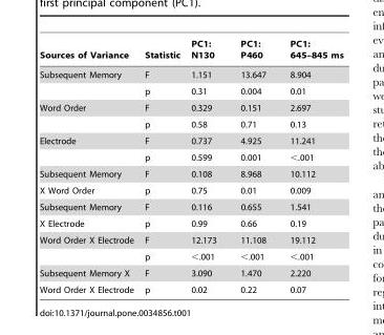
<table><thead><tr><td>Sources of Variance</td><td>Statistic</td><td>PC1: N130</td><td>PC1: P460</td><td>PC1: 645–845 ms</td></tr></thead><tbody><tr><td rowspan="2">Subsequent Memory</td><td>F</td><td>1.151</td><td>13.647</td><td>8.904</td></tr><tr><td>p</td><td>0.31</td><td>0.004</td><td>0.01</td></tr><tr><td rowspan="2">Word Order</td><td>F</td><td>0.329</td><td>0.151</td><td>2.697</td></tr><tr><td>p</td><td>0.58</td><td>0.71</td><td>0.13</td></tr><tr><td rowspan="2">Electrode</td><td>F</td><td>0.737</td><td>4.925</td><td>11.241</td></tr><tr><td>p</td><td>0.599</td><td>0.001</td><td>&lt;.001</td></tr><tr><td>Subsequent Memory</td><td>F</td><td>0.108</td><td>8.968</td><td>10.112</td></tr><tr><td>X Word Order</td><td>p</td><td>0.75</td><td>0.01</td><td>0.009</td></tr><tr><td>Subsequent Memory</td><td>F</td><td>0.116</td><td>0.655</td><td>1.541</td></tr><tr><td>X Electrode</td><td>p</td><td>0.99</td><td>0.66</td><td>0.19</td></tr><tr><td rowspan="2">Word Order X Electrode</td><td>F</td><td>12.173</td><td>11.108</td><td>19.112</td></tr><tr><td>p</td><td>&lt;.001</td><td>&lt;.001</td><td>&lt;.001</td></tr><tr><td>Subsequent Memory X</td><td>F</td><td>3.090</td><td>1.470</td><td>2.220</td></tr><tr><td>Word Order X Electrode</td><td>p</td><td>0.02</td><td>0.22</td><td>0.07</td></tr></tbody></table>